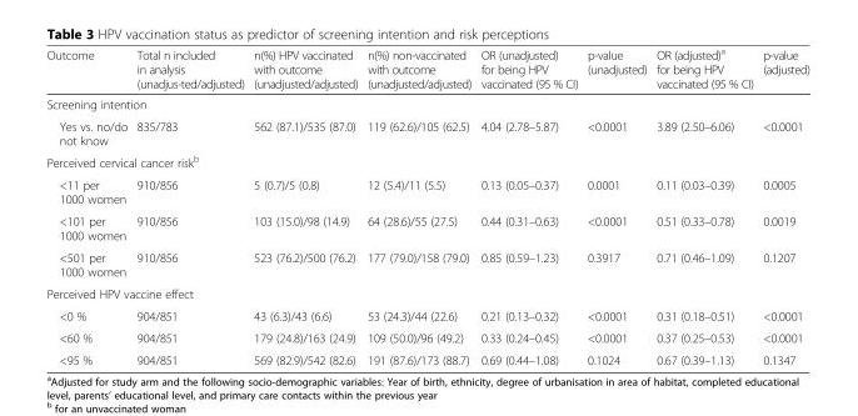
<table><thead><tr><td>Outcome</td><td>Total n included in analysis (unadjus-ted/adjusted)</td><td>n(%) HPV vaccinated with outcome (unadjusted/adjusted)</td><td>n(%) non-vaccinated with outcome (unadjusted/adjusted)</td><td>OR (unadjusted) for being HPV vaccinated (95 % CI)</td><td>p-value (unadjusted)</td><td>OR (adjusted)<sup>a</sup> for being HPV vaccinated (95 % CI)</td><td>p-value (adjusted)</td></tr></thead><tbody><tr><td colspan="8">Screening intention</td></tr><tr><td>Yes vs. no/do not know</td><td>835/783</td><td>562 (87.1)/535 (87.0)</td><td>119 (62.6)/105 (62.5)</td><td>4.04 (2.78–5.87)</td><td>&lt;0.0001</td><td>3.89 (2.50–6.06)</td><td>&lt;0.0001</td></tr><tr><td colspan="8">Perceived cervical cancer risk<sup>b</sup></td></tr><tr><td>&lt;11 per 1000 women</td><td>910/856</td><td>5 (0.7)/5 (0.8)</td><td>12 (5.4)/11 (5.5)</td><td>0.13 (0.05–0.37)</td><td>0.0001</td><td>0.11 (0.03–0.39)</td><td>0.0005</td></tr><tr><td>&lt;101 per 1000 women</td><td>910/856</td><td>103 (15.0)/98 (14.9)</td><td>64 (28.6)/55 (27.5)</td><td>0.44 (0.31–0.63)</td><td>&lt;0.0001</td><td>0.51 (0.33–0.78)</td><td>0.0019</td></tr><tr><td>&lt;501 per 1000 women</td><td>910/856</td><td>523 (76.2)/500 (76.2)</td><td>177 (79.0)/158 (79.0)</td><td>0.85 (0.59–1.23)</td><td>0.3917</td><td>0.71 (0.46–1.09)</td><td>0.1207</td></tr><tr><td colspan="8">Perceived HPV vaccine effect</td></tr><tr><td>&lt;0 %</td><td>904/851</td><td>43 (6.3)/43 (6.6)</td><td>53 (24.3)/44 (22.6)</td><td>0.21 (0.13–0.32)</td><td>&lt;0.0001</td><td>0.31 (0.18–0.51)</td><td>&lt;0.0001</td></tr><tr><td>&lt;60 %</td><td>904/851</td><td>179 (24.8)/163 (24.9)</td><td>109 (50.0)/96 (49.2)</td><td>0.33 (0.24–0.45)</td><td>&lt;0.0001</td><td>0.37 (0.25–0.53)</td><td>&lt;0.0001</td></tr><tr><td>&lt;95 %</td><td>904/851</td><td>569 (82.9)/542 (82.6)</td><td>191 (87.6)/173 (88.7)</td><td>0.69 (0.44–1.08)</td><td>0.1024</td><td>0.67 (0.39–1.13)</td><td>0.1347</td></tr></tbody></table>